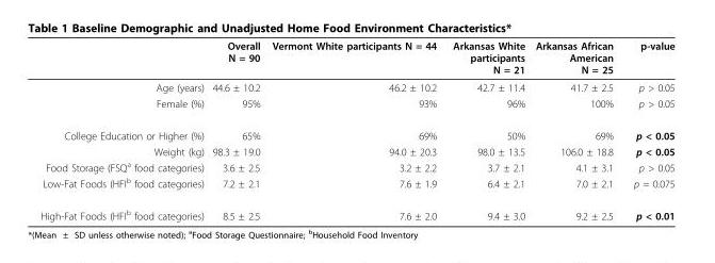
<table><thead><tr><td></td><td>Overall N = 90</td><td>Vermont White participants N = 44</td><td>Arkansas White participants N = 21</td><td>Arkansas African American N = 25</td><td>p-value</td></tr></thead><tbody><tr><td>Age (years)</td><td>44.6 ± 10.2</td><td>46.2 ± 10.2</td><td>42.7 ± 11.4</td><td>41.7 ± 2.5</td><td>p &gt; 0.05</td></tr><tr><td>Female (%)</td><td>95%</td><td>93%</td><td>96%</td><td>100%</td><td>p &gt; 0.05</td></tr><tr><td>College Education or Higher (%)</td><td>65%</td><td>69%</td><td>50%</td><td>69%</td><td>p &lt; 0.05</td></tr><tr><td>Weight (kg)</td><td>98.3 ± 19.0</td><td>94.0 ± 20.3</td><td>98.0 ± 13.5</td><td>106.0 ± 18.8</td><td>p &lt; 0.05</td></tr><tr><td>Food Storage (FSQ<sup>a</sup> food categories)</td><td>3.6 ± 2.5</td><td>3.2 ± 2.2</td><td>3.7 ± 2.1</td><td>4.1 ± 3.1</td><td>p &gt; 0.05</td></tr><tr><td>Low-Fat Foods (HFI<sup>b</sup> food categories)</td><td>7.2 ± 2.1</td><td>7.6 ± 1.9</td><td>6.4 ± 2.1</td><td>7.0 ± 2.1</td><td>p = 0.075</td></tr><tr><td>High-Fat Foods (HFI<sup>b</sup> food categories)</td><td>8.5 ± 2.5</td><td>7.6 ± 2.0</td><td>9.4 ± 3.0</td><td>9.2 ± 2.5</td><td>p &lt; 0.01</td></tr></tbody></table>